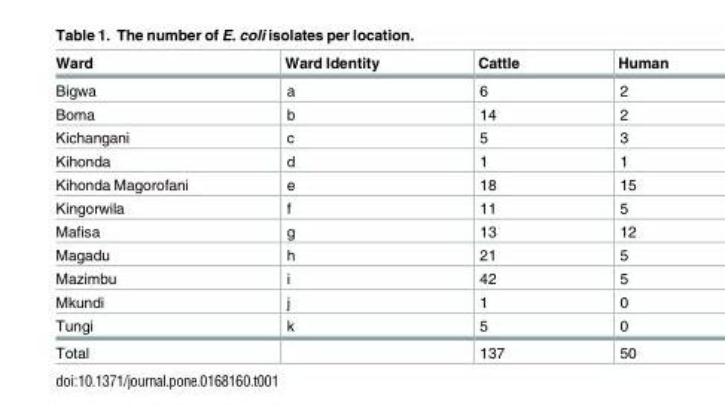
<table><thead><tr><td>Ward</td><td>Ward Identity</td><td>Cattle</td><td>Human</td></tr></thead><tbody><tr><td>Bigwa</td><td>a</td><td>6</td><td>2</td></tr><tr><td>Boma</td><td>b</td><td>14</td><td>2</td></tr><tr><td>Kichangani</td><td>c</td><td>5</td><td>3</td></tr><tr><td>Kihonda</td><td>d</td><td>1</td><td>1</td></tr><tr><td>Kihonda Magorofani</td><td>e</td><td>18</td><td>15</td></tr><tr><td>Kingorwila</td><td>f</td><td>11</td><td>5</td></tr><tr><td>Mafisa</td><td>g</td><td>13</td><td>12</td></tr><tr><td>Magadu</td><td>h</td><td>21</td><td>5</td></tr><tr><td>Mazimbu</td><td>i</td><td>42</td><td>5</td></tr><tr><td>Mkundi</td><td>j</td><td>1</td><td>0</td></tr><tr><td>Tungi</td><td>k</td><td>5</td><td>0</td></tr><tr><td>Total</td><td></td><td>137</td><td>50</td></tr></tbody></table>